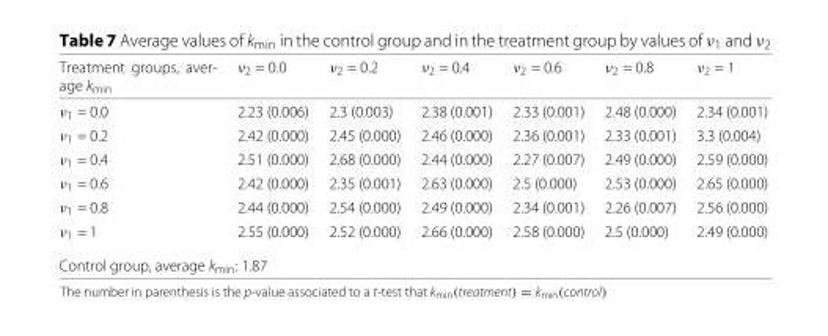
<table><thead><tr><td>Treatment groups, aver- age kmin</td><td>ν<sub>2</sub> = 0.0</td><td>ν<sub>2</sub> = 0.2</td><td>ν<sub>2</sub> = 0.4</td><td>ν<sub>2</sub> = 0.6</td><td>ν<sub>2</sub> = 0.8</td><td>ν<sub>2</sub> = 1</td></tr></thead><tbody><tr><td>ν<sub>1</sub> = 0.0</td><td>2.23 (0.006)</td><td>2.3 (0.003)</td><td>2.38 (0.001)</td><td>2.33 (0.001)</td><td>2.48 (0.000)</td><td>2.34 (0.001)</td></tr><tr><td>ν<sub>1</sub> = 0.2</td><td>2.42 (0.000)</td><td>2.45 (0.000)</td><td>2.46 (0.000)</td><td>2.36 (0.001)</td><td>2.33 (0.001)</td><td>3.3 (0.004)</td></tr><tr><td>ν<sub>1</sub> = 0.4</td><td>2.51 (0.000)</td><td>2.68 (0.000)</td><td>2.44 (0.000)</td><td>2.27 (0.007)</td><td>2.49 (0.000)</td><td>2.59 (0.000)</td></tr><tr><td>ν<sub>1</sub> = 0.6</td><td>2.42 (0.000)</td><td>2.35 (0.001)</td><td>2.63 (0.000)</td><td>2.5 (0.000)</td><td>2.53 (0.000)</td><td>2.65 (0.000)</td></tr><tr><td>ν<sub>1</sub> = 0.8</td><td>2.44 (0.000)</td><td>2.54 (0.000)</td><td>2.49 (0.000)</td><td>2.34 (0.001)</td><td>2.26 (0.007)</td><td>2.56 (0.000)</td></tr><tr><td>ν<sub>1</sub> = 1</td><td>2.55 (0.000)</td><td>2.52 (0.000)</td><td>2.66 (0.000)</td><td>2.58 (0.000)</td><td>2.5 (0.000)</td><td>2.49 (0.000)</td></tr><tr><td colspan="7">Control group, average k<sub>min</sub>: 1.87</td></tr></tbody></table>